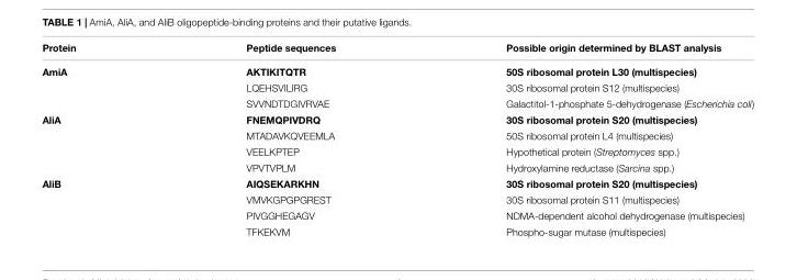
<table><thead><tr><td>Protein</td><td>Peptide sequences</td><td>Possible origin determined by BLAST analysis</td></tr></thead><tbody><tr><td rowspan="3">AmiA</td><td>AKTIKITQTR</td><td>50S ribosomal protein L30 (multispecies)</td></tr><tr><td>LQEHSVILIRG</td><td>30S ribosomal protein S12 (multispecies)</td></tr><tr><td>SVVNDTDGIVRVAE</td><td>Galactitol-1-phosphate 5-dehydrogenase (Escherichia coli)</td></tr><tr><td rowspan="4">AliA</td><td>FNEMQPIVDRQ</td><td>30S ribosomal protein S20 (multispecies)</td></tr><tr><td>MTADAVKQVEEMLA</td><td>50S ribosomal protein L4 (multispecies)</td></tr><tr><td>VEELKPTEP</td><td>Hypothetical protein (Streptomyces spp.)</td></tr><tr><td>VPVTVPLM</td><td>Hydroxylamine reductase (Sarcina spp.)</td></tr><tr><td rowspan="4">AliB</td><td>AIQSEKARKHN</td><td>30S ribosomal protein S20 (multispecies)</td></tr><tr><td>VMVKGPGPGREST</td><td>30S ribosomal protein S11 (multispecies)</td></tr><tr><td>PIVGGHEGAGV</td><td>NDMA-dependent alcohol dehydrogenase (multispecies)</td></tr><tr><td>TFKEKVM</td><td>Phospho-sugar mutase (multispecies)</td></tr></tbody></table>